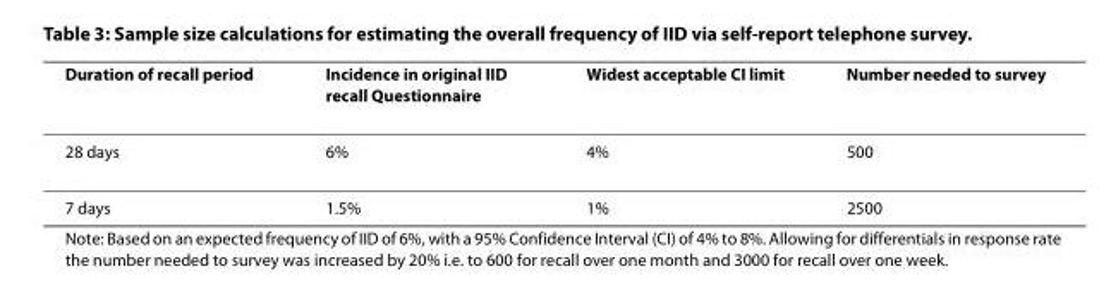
<table><thead><tr><td>Duration of recall period</td><td>Incidence in original IID recall Questionnaire</td><td>Widest acceptable CI limit</td><td>Number needed to survey</td></tr></thead><tbody><tr><td>28 days</td><td>6%</td><td>4%</td><td>500</td></tr><tr><td>7 days</td><td>1.5%</td><td>1%</td><td>2500</td></tr></tbody></table>